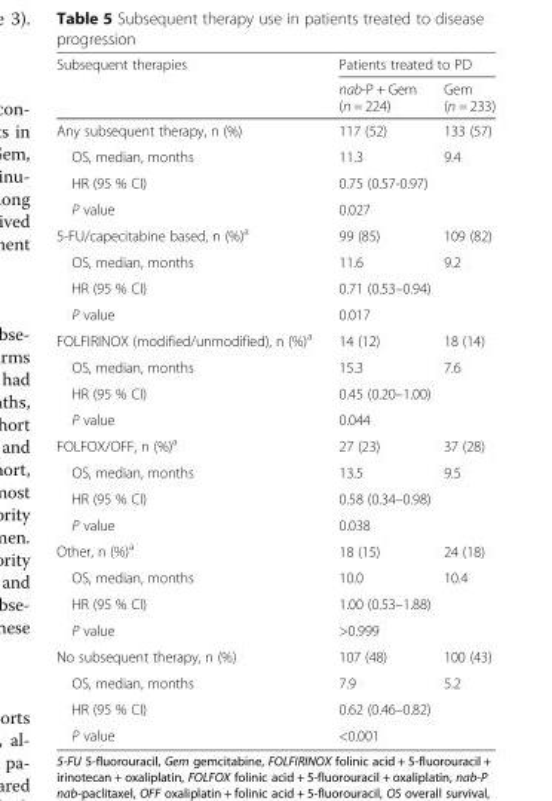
<table><thead><tr><td rowspan="2">Subsequent therapies</td><td colspan="2">Patients treated to PD</td></tr><tr><td>nab-P + Gem (n = 224)</td><td>Gem (n = 233)</td></tr></thead><tbody><tr><td>Any subsequent therapy, n (%)</td><td>117 (52)</td><td>133 (57)</td></tr><tr><td>OS, median, months</td><td>11.3</td><td>9.4</td></tr><tr><td>HR (95 % CI)</td><td colspan="2">0.75 (0.57-0.97)</td></tr><tr><td>P value</td><td colspan="2">0.027</td></tr><tr><td>5-FU/capecitabine based, n (%)<sup>a</sup></td><td>99 (85)</td><td>109 (82)</td></tr><tr><td>OS, median, months</td><td>11.6</td><td>9.2</td></tr><tr><td>HR (95 % CI)</td><td colspan="2">0.71 (0.53–0.94)</td></tr><tr><td>P value</td><td colspan="2">0.017</td></tr><tr><td>FOLFIRINOX (modified/unmodified), n (%)<sup>a</sup></td><td>14 (12)</td><td>18 (14)</td></tr><tr><td>OS, median, months</td><td>15.3</td><td>7.6</td></tr><tr><td>HR (95 % CI)</td><td colspan="2">0.45 (0.20–1.00)</td></tr><tr><td>P value</td><td colspan="2">0.044</td></tr><tr><td>FOLFOX/OFF, n (%)<sup>a</sup></td><td>27 (23)</td><td>37 (28)</td></tr><tr><td>OS, median, months</td><td>13.5</td><td>9.5</td></tr><tr><td>HR (95 % CI)</td><td colspan="2">0.58 (0.34–0.98)</td></tr><tr><td>P value</td><td colspan="2">0.038</td></tr><tr><td>Other, n (%)<sup>a</sup></td><td>18 (15)</td><td>24 (18)</td></tr><tr><td>OS, median, months</td><td>10.0</td><td>10.4</td></tr><tr><td>HR (95 % CI)</td><td colspan="2">1.00 (0.53–1.88)</td></tr><tr><td>P value</td><td colspan="2">&gt;0.999</td></tr><tr><td>No subsequent therapy, n (%)</td><td>107 (48)</td><td>100 (43)</td></tr><tr><td>OS, median, months</td><td>7.9</td><td>5.2</td></tr><tr><td>HR (95 % CI)</td><td colspan="2">0.62 (0.46–0.82)</td></tr><tr><td>P value</td><td colspan="2">&lt;0.001</td></tr></tbody></table>